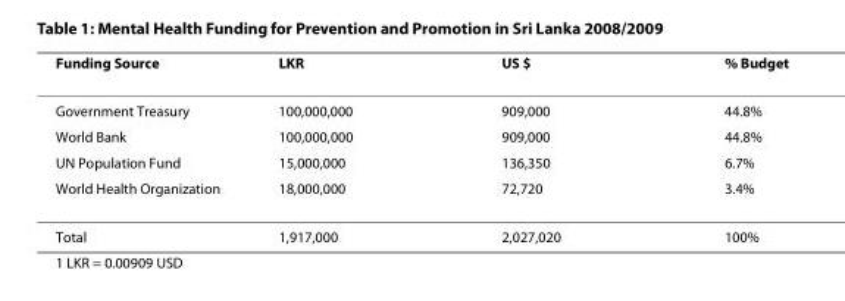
<table><thead><tr><td>Funding Source</td><td>LKR</td><td>US $</td><td>% Budget</td></tr></thead><tbody><tr><td>Government Treasury</td><td>100,000,000</td><td>909,000</td><td>44.8%</td></tr><tr><td>World Bank</td><td>100,000,000</td><td>909,000</td><td>44.8%</td></tr><tr><td>UN Population Fund</td><td>15,000,000</td><td>136,350</td><td>6.7%</td></tr><tr><td>World Health Organization</td><td>18,000,000</td><td>72,720</td><td>3.4%</td></tr><tr><td>Total</td><td>1,917,000</td><td>2,027,020</td><td>100%</td></tr></tbody></table>